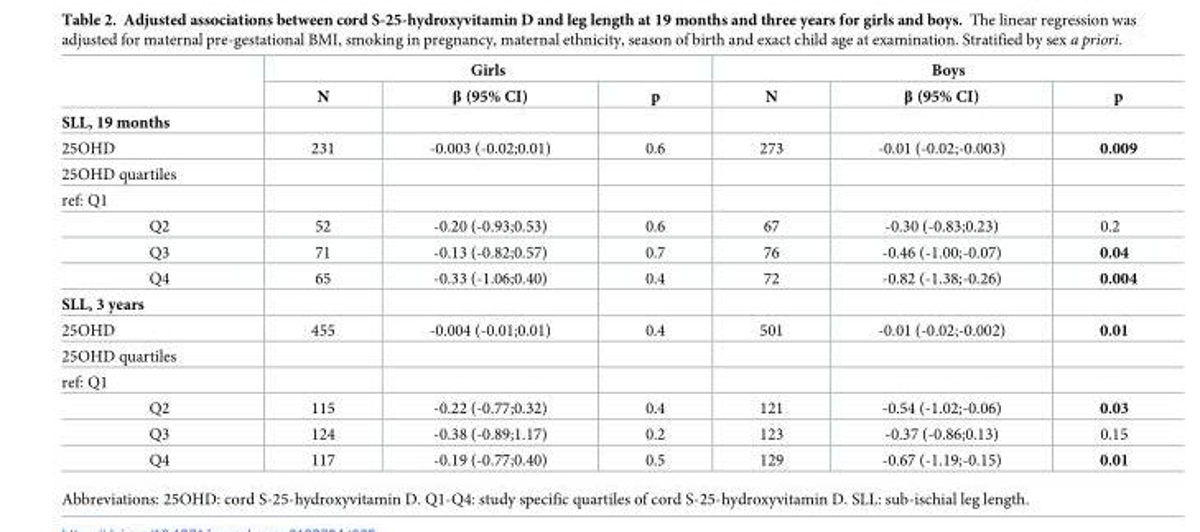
<table><thead><tr><td rowspan="2"></td><td colspan="3">Girls</td><td colspan="3">Boys</td></tr><tr><td>N</td><td>β (95% CI)</td><td>p</td><td>N</td><td>β (95% CI)</td><td>p</td></tr></thead><tbody><tr><td colspan="7">SLL, 19 months</td></tr><tr><td>25OHD</td><td>231</td><td>-0.003 (-0.02;0.01)</td><td>0.6</td><td>273</td><td>-0.01 (-0.02;-0.003)</td><td>0.009</td></tr><tr><td colspan="7">25OHD quartiles</td></tr><tr><td colspan="7">ref: Q1</td></tr><tr><td>Q2</td><td>52</td><td>-0.20 (-0.93;0.53)</td><td>0.6</td><td>67</td><td>-0.30 (-0.83;0.23)</td><td>0.2</td></tr><tr><td>Q3</td><td>71</td><td>-0.13 (-0.82;0.57)</td><td>0.7</td><td>76</td><td>-0.46 (-1.00;-0.07)</td><td>0.04</td></tr><tr><td>Q4</td><td>65</td><td>-0.33 (-1.06;0.40)</td><td>0.4</td><td>72</td><td>-0.82 (-1.38;-0.26)</td><td>0.004</td></tr><tr><td colspan="7">SLL, 3 years</td></tr><tr><td>25OHD</td><td>455</td><td>-0.004 (-0.01;0.01)</td><td>0.4</td><td>501</td><td>-0.01 (-0.02;-0.002)</td><td>0.01</td></tr><tr><td colspan="7">25OHD quartiles</td></tr><tr><td colspan="7">ref: Q1</td></tr><tr><td>Q2</td><td>115</td><td>-0.22 (-0.77;0.32)</td><td>0.4</td><td>121</td><td>-0.54 (-1.02;-0.06)</td><td>0.03</td></tr><tr><td>Q3</td><td>124</td><td>-0.38 (-0.89;1.17)</td><td>0.2</td><td>123</td><td>-0.37 (-0.86;0.13)</td><td>0.15</td></tr><tr><td>Q4</td><td>117</td><td>-0.19 (-0.77;0.40)</td><td>0.5</td><td>129</td><td>-0.67 (-1.19;-0.15)</td><td>0.01</td></tr></tbody></table>